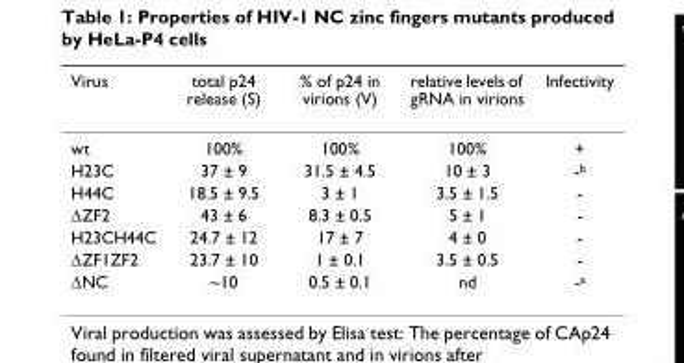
<table><thead><tr><td>Virus</td><td>total p24 release (S)</td><td>% of p24 in virions (V)</td><td>relative levels of gRNA in virions</td><td>Infectivity</td></tr></thead><tbody><tr><td>wt</td><td>100%</td><td>100%</td><td>100%</td><td>+</td></tr><tr><td>H23C</td><td>37 ± 9</td><td>31.5 ± 4.5</td><td>10 ± 3</td><td>-<sup>b</sup></td></tr><tr><td>H44C</td><td>18.5 ± 9.5</td><td>3 ± 1</td><td>3.5 ± 1.5</td><td>-</td></tr><tr><td>ΔZF2</td><td>43 ± 6</td><td>8.3 ± 0.5</td><td>5 ± 1</td><td>-</td></tr><tr><td>H23CH44C</td><td>24.7 ± 12</td><td>17 ± 7</td><td>4 ± 0</td><td>-</td></tr><tr><td>ΔZF1ZF2</td><td>23.7 ± 10</td><td>1 ± 0.1</td><td>3.5 ± 0.5</td><td>-</td></tr><tr><td>ΔNC</td><td>~10</td><td>0.5 ± 0.1</td><td>nd</td><td>-<sup>a</sup></td></tr></tbody></table>